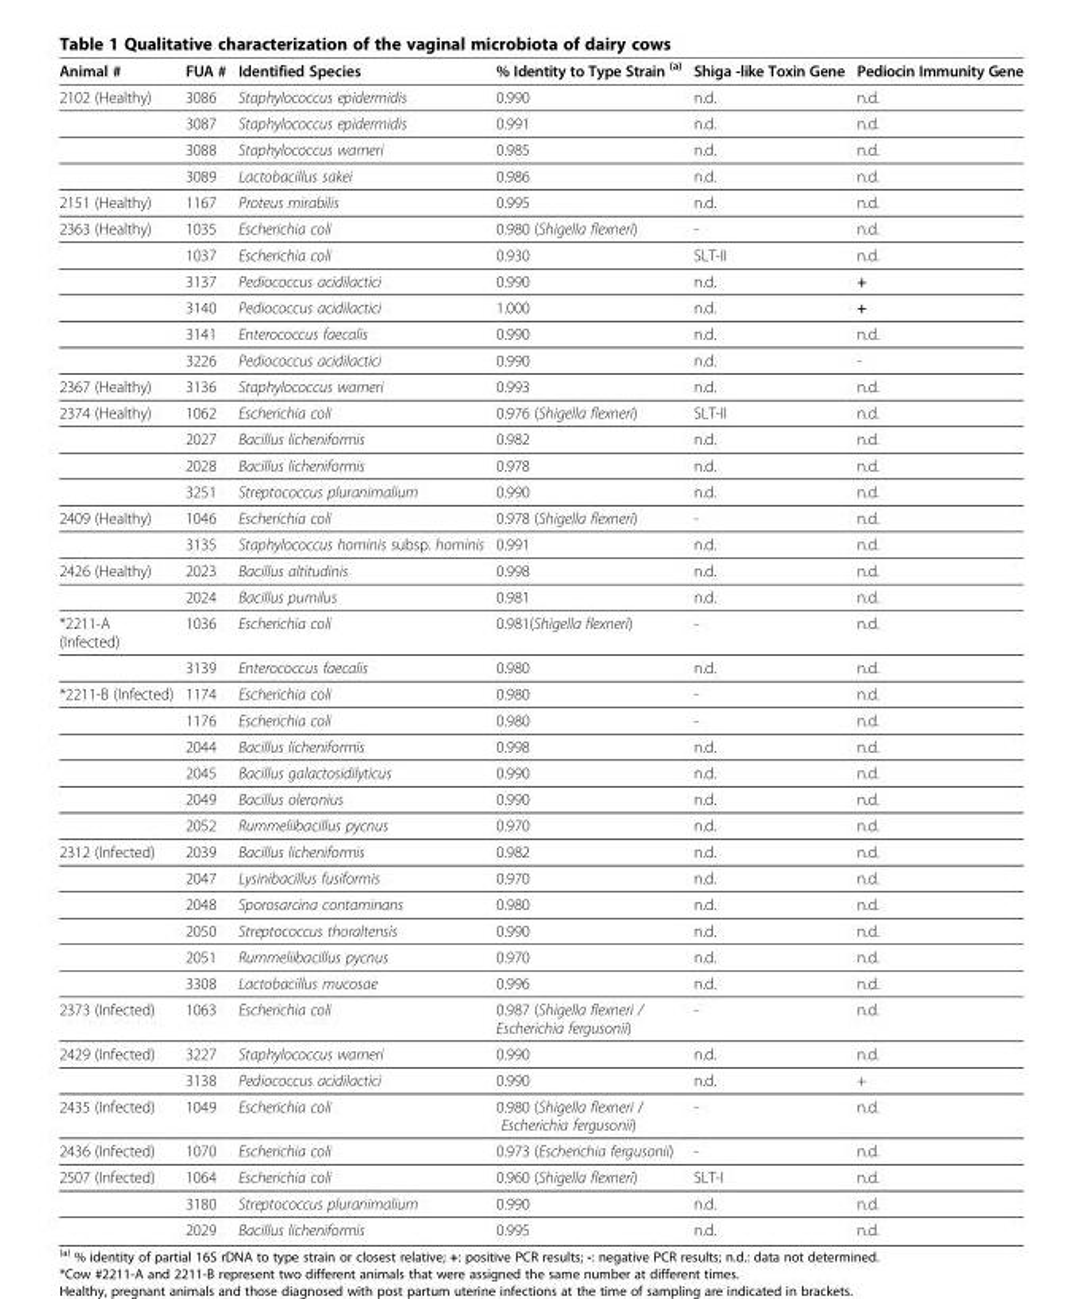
<table><thead><tr><td>Animal #</td><td>FUA #</td><td>Identified Species</td><td>% Identity to Type Strain <sup>(a)</sup></td><td>Shiga -like Toxin Gene</td><td>Pediocin Immunity Gene</td></tr></thead><tbody><tr><td rowspan="4">2102 (Healthy)</td><td>3086</td><td>Staphylococcus epidermidis</td><td>0.990</td><td>n.d.</td><td>n.d.</td></tr><tr><td>3087</td><td>Staphylococcus epidermidis</td><td>0.991</td><td>n.d.</td><td>n.d.</td></tr><tr><td>3088</td><td>Staphylococcus warneri</td><td>0.985</td><td>n.d.</td><td>n.d.</td></tr><tr><td>3089</td><td>Lactobacillus sakei</td><td>0.986</td><td>n.d.</td><td>n.d.</td></tr><tr><td>2151 (Healthy)</td><td>1167</td><td>Proteus mirabilis</td><td>0.995</td><td>n.d.</td><td>n.d.</td></tr><tr><td rowspan="6">2363 (Healthy)</td><td>1035</td><td>Escherichia coli</td><td>0.980 (Shigella flexneri)</td><td>-</td><td>n.d.</td></tr><tr><td>1037</td><td>Escherichia coli</td><td>0.930</td><td>SLT-II</td><td>n.d.</td></tr><tr><td>3137</td><td>Pediococcus acidilactici</td><td>0.990</td><td>n.d.</td><td>+</td></tr><tr><td>3140</td><td>Pediococcus acidilactici</td><td>1.000</td><td>n.d.</td><td>+</td></tr><tr><td>3141</td><td>Enterococcus faecalis</td><td>0.990</td><td>n.d.</td><td>n.d.</td></tr><tr><td>3226</td><td>Pediococcus acidilactici</td><td>0.990</td><td>n.d.</td><td>-</td></tr><tr><td>2367 (Healthy)</td><td>3136</td><td>Staphylococcus warneri</td><td>0.993</td><td>n.d.</td><td>n.d.</td></tr><tr><td rowspan="4">2374 (Healthy)</td><td>1062</td><td>Escherichia coli</td><td>0.976 (Shigella flexneri)</td><td>SLT-II</td><td>n.d.</td></tr><tr><td>2027</td><td>Bacillus licheniformis</td><td>0.982</td><td>n.d.</td><td>n.d.</td></tr><tr><td>2028</td><td>Bacillus licheniformis</td><td>0.978</td><td>n.d.</td><td>n.d.</td></tr><tr><td>3251</td><td>Streptococcus pluranimalium</td><td>0.990</td><td>n.d.</td><td>n.d.</td></tr><tr><td rowspan="2">2409 (Healthy)</td><td>1046</td><td>Escherichia coli</td><td>0.978 (Shigella flexneri)</td><td>-</td><td>n.d.</td></tr><tr><td>3135</td><td>Staphylococcus hominis subsp. hominis</td><td>0.991</td><td>n.d.</td><td>n.d.</td></tr><tr><td rowspan="2">2426 (Healthy)</td><td>2023</td><td>Bacillus altitudinis</td><td>0.998</td><td>n.d.</td><td>n.d.</td></tr><tr><td>2024</td><td>Bacillus pumilus</td><td>0.981</td><td>n.d.</td><td>n.d.</td></tr><tr><td rowspan="2">*2211-A (Infected)</td><td>1036</td><td>Escherichia coli</td><td>0.981(Shigella flexneri)</td><td>-</td><td>n.d.</td></tr><tr><td>3139</td><td>Enterococcus faecalis</td><td>0.980</td><td>n.d.</td><td>n.d.</td></tr><tr><td rowspan="6">*2211-B (Infected)</td><td>1174</td><td>Escherichia coli</td><td>0.980</td><td>-</td><td>n.d.</td></tr><tr><td>1176</td><td>Escherichia coli</td><td>0.980</td><td>-</td><td>n.d.</td></tr><tr><td>2044</td><td>Bacillus licheniformis</td><td>0.998</td><td>n.d.</td><td>n.d.</td></tr><tr><td>2045</td><td>Bacillus galactosidilyticus</td><td>0.990</td><td>n.d.</td><td>n.d.</td></tr><tr><td>2049</td><td>Bacillus oleronius</td><td>0.990</td><td>n.d.</td><td>n.d.</td></tr><tr><td>2052</td><td>Rummeliibacillus pycnus</td><td>0.970</td><td>n.d.</td><td>n.d.</td></tr><tr><td rowspan="6">2312 (Infected)</td><td>2039</td><td>Bacillus licheniformis</td><td>0.982</td><td>n.d.</td><td>n.d.</td></tr><tr><td>2047</td><td>Lysinibacillus fusiformis</td><td>0.970</td><td>n.d.</td><td>n.d.</td></tr><tr><td>2048</td><td>Sporosarcina contaminans</td><td>0.980</td><td>n.d.</td><td>n.d.</td></tr><tr><td>2050</td><td>Streptococcus thoraltensis</td><td>0.990</td><td>n.d.</td><td>n.d.</td></tr><tr><td>2051</td><td>Rummeliibacillus pycnus</td><td>0.970</td><td>n.d.</td><td>n.d.</td></tr><tr><td>3308</td><td>Lactobacillus mucosae</td><td>0.996</td><td>n.d.</td><td>n.d.</td></tr><tr><td>2373 (Infected)</td><td>1063</td><td>Escherichia coli</td><td>0.987 (Shigella flexneri / Escherichia fergusonii)</td><td>-</td><td>n.d.</td></tr><tr><td rowspan="2">2429 (Infected)</td><td>3227</td><td>Staphylococcus warneri</td><td>0.990</td><td>n.d.</td><td>n.d.</td></tr><tr><td>3138</td><td>Pediococcus acidilactici</td><td>0.990</td><td>n.d.</td><td>+</td></tr><tr><td>2435 (Infected)</td><td>1049</td><td>Escherichia coli</td><td>0.980 (Shigella flexneri / Escherichia fergusonii)</td><td>-</td><td>n.d.</td></tr><tr><td>2436 (Infected)</td><td>1070</td><td>Escherichia coli</td><td>0.973 (Escherichia fergusonii)</td><td>-</td><td>n.d.</td></tr><tr><td rowspan="3">2507 (Infected)</td><td>1064</td><td>Escherichia coli</td><td>0.960 (Shigella flexneri)</td><td>SLT-I</td><td>n.d.</td></tr><tr><td>3180</td><td>Streptococcus pluranimalium</td><td>0.990</td><td>n.d.</td><td>n.d.</td></tr><tr><td>2029</td><td>Bacillus licheniformis</td><td>0.995</td><td>n.d.</td><td>n.d.</td></tr></tbody></table>